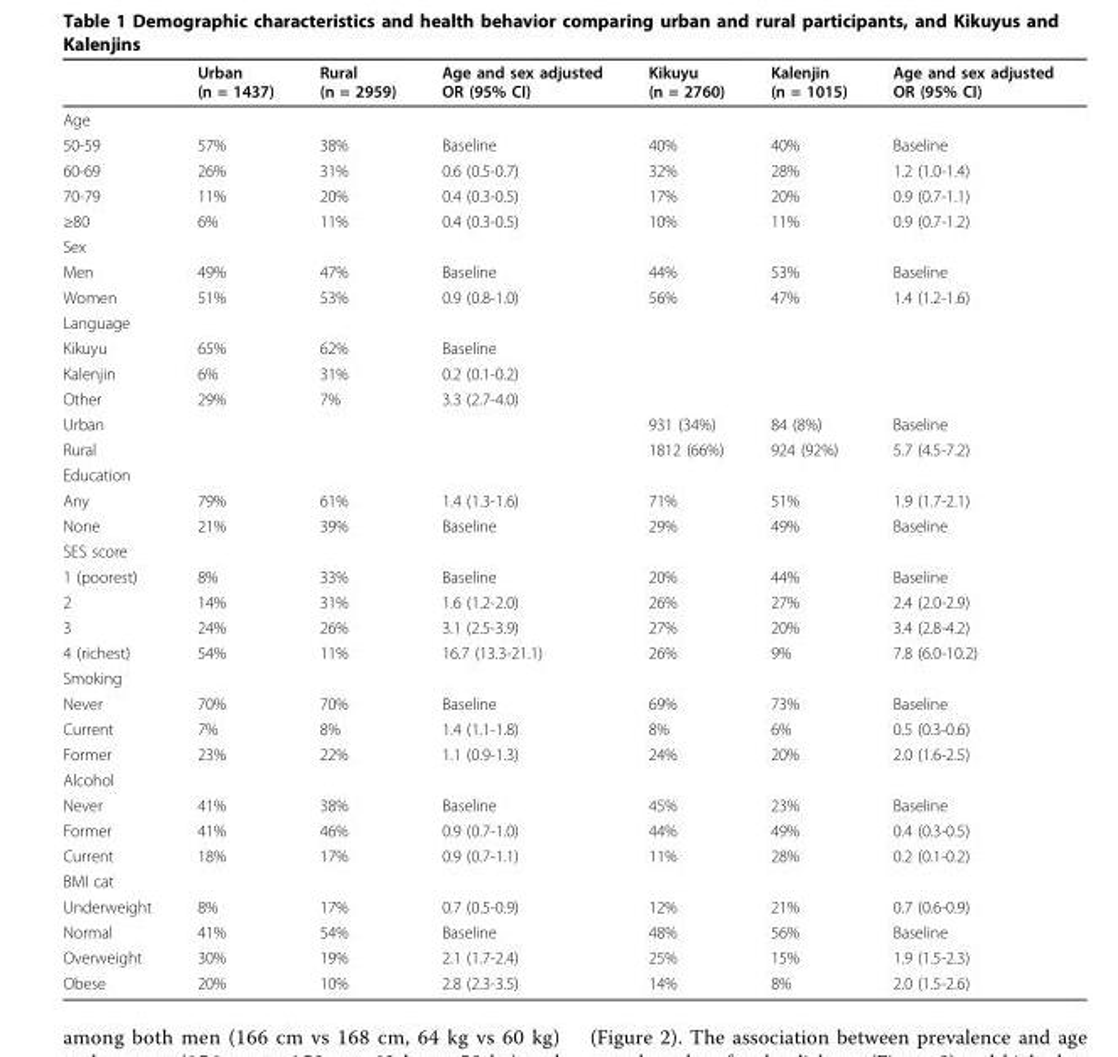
<table><thead><tr><td></td><td>Urban (n = 1437)</td><td>Rural (n = 2959)</td><td>Age and sex adjusted OR (95% CI)</td><td>Kikuyu (n = 2760)</td><td>Kalenjin (n = 1015)</td><td>Age and sex adjusted OR (95% CI)</td></tr></thead><tbody><tr><td colspan="7">Age</td></tr><tr><td>50-59</td><td>57%</td><td>38%</td><td>Baseline</td><td>40%</td><td>40%</td><td>Baseline</td></tr><tr><td>60-69</td><td>26%</td><td>31%</td><td>0.6 (0.5-0.7)</td><td>32%</td><td>28%</td><td>1.2 (1.0-1.4)</td></tr><tr><td>70-79</td><td>11%</td><td>20%</td><td>0.4 (0.3-0.5)</td><td>17%</td><td>20%</td><td>0.9 (0.7-1.1)</td></tr><tr><td>≥80</td><td>6%</td><td>11%</td><td>0.4 (0.3-0.5)</td><td>10%</td><td>11%</td><td>0.9 (0.7-1.2)</td></tr><tr><td colspan="7">Sex</td></tr><tr><td>Men</td><td>49%</td><td>47%</td><td>Baseline</td><td>44%</td><td>53%</td><td>Baseline</td></tr><tr><td>Women</td><td>51%</td><td>53%</td><td>0.9 (0.8-1.0)</td><td>56%</td><td>47%</td><td>1.4 (1.2-1.6)</td></tr><tr><td colspan="7">Language</td></tr><tr><td>Kikuyu</td><td>65%</td><td>62%</td><td>Baseline</td><td></td><td></td><td></td></tr><tr><td>Kalenjin</td><td>6%</td><td>31%</td><td>0.2 (0.1-0.2)</td><td></td><td></td><td></td></tr><tr><td>Other</td><td>29%</td><td>7%</td><td>3.3 (2.7-4.0)</td><td></td><td></td><td></td></tr><tr><td>Urban</td><td></td><td></td><td></td><td>931 (34%)</td><td>84 (8%)</td><td>Baseline</td></tr><tr><td>Rural</td><td></td><td></td><td></td><td>1812 (66%)</td><td>924 (92%)</td><td>5.7 (4.5-7.2)</td></tr><tr><td colspan="7">Education</td></tr><tr><td>Any</td><td>79%</td><td>61%</td><td>1.4 (1.3-1.6)</td><td>71%</td><td>51%</td><td>1.9 (1.7-2.1)</td></tr><tr><td>None</td><td>21%</td><td>39%</td><td>Baseline</td><td>29%</td><td>49%</td><td>Baseline</td></tr><tr><td colspan="7">SES score</td></tr><tr><td>1 (poorest)</td><td>8%</td><td>33%</td><td>Baseline</td><td>20%</td><td>44%</td><td>Baseline</td></tr><tr><td>2</td><td>14%</td><td>31%</td><td>1.6 (1.2-2.0)</td><td>26%</td><td>27%</td><td>2.4 (2.0-2.9)</td></tr><tr><td>3</td><td>24%</td><td>26%</td><td>3.1 (2.5-3.9)</td><td>27%</td><td>20%</td><td>3.4 (2.8-4.2)</td></tr><tr><td>4 (richest)</td><td>54%</td><td>11%</td><td>16.7 (13.3-21.1)</td><td>26%</td><td>9%</td><td>7.8 (6.0-10.2)</td></tr><tr><td colspan="7">Smoking</td></tr><tr><td>Never</td><td>70%</td><td>70%</td><td>Baseline</td><td>69%</td><td>73%</td><td>Baseline</td></tr><tr><td>Current</td><td>7%</td><td>8%</td><td>1.4 (1.1-1.8)</td><td>8%</td><td>6%</td><td>0.5 (0.3-0.6)</td></tr><tr><td>Former</td><td>23%</td><td>22%</td><td>1.1 (0.9-1.3)</td><td>24%</td><td>20%</td><td>2.0 (1.6-2.5)</td></tr><tr><td colspan="7">Alcohol</td></tr><tr><td>Never</td><td>41%</td><td>38%</td><td>Baseline</td><td>45%</td><td>23%</td><td>Baseline</td></tr><tr><td>Former</td><td>41%</td><td>46%</td><td>0.9 (0.7-1.0)</td><td>44%</td><td>49%</td><td>0.4 (0.3-0.5)</td></tr><tr><td>Current</td><td>18%</td><td>17%</td><td>0.9 (0.7-1.1)</td><td>11%</td><td>28%</td><td>0.2 (0.1-0.2)</td></tr><tr><td colspan="7">BMI cat</td></tr><tr><td>Underweight</td><td>8%</td><td>17%</td><td>0.7 (0.5-0.9)</td><td>12%</td><td>21%</td><td>0.7 (0.6-0.9)</td></tr><tr><td>Normal</td><td>41%</td><td>54%</td><td>Baseline</td><td>48%</td><td>56%</td><td>Baseline</td></tr><tr><td>Overweight</td><td>30%</td><td>19%</td><td>2.1 (1.7-2.4)</td><td>25%</td><td>15%</td><td>1.9 (1.5-2.3)</td></tr><tr><td>Obese</td><td>20%</td><td>10%</td><td>2.8 (2.3-3.5)</td><td>14%</td><td>8%</td><td>2.0 (1.5-2.6)</td></tr></tbody></table>